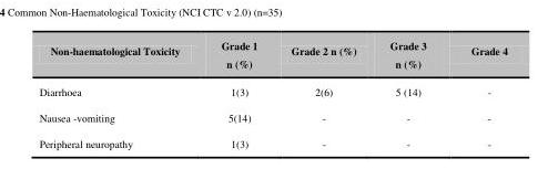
<table><thead><tr><td>Non-haematological Toxicity</td><td>Grade 1 n (%)</td><td>Grade 2 n (%)</td><td>Grade 3 n (%)</td><td>Grade 4</td></tr></thead><tbody><tr><td>Diarrhoea</td><td>1(3)</td><td>2(6)</td><td>5 (14)</td><td>-</td></tr><tr><td>Nausea -vomiting</td><td>5(14)</td><td>-</td><td>-</td><td>-</td></tr><tr><td>Peripheral neuropathy</td><td>1(3)</td><td>-</td><td>-</td><td>-</td></tr></tbody></table>